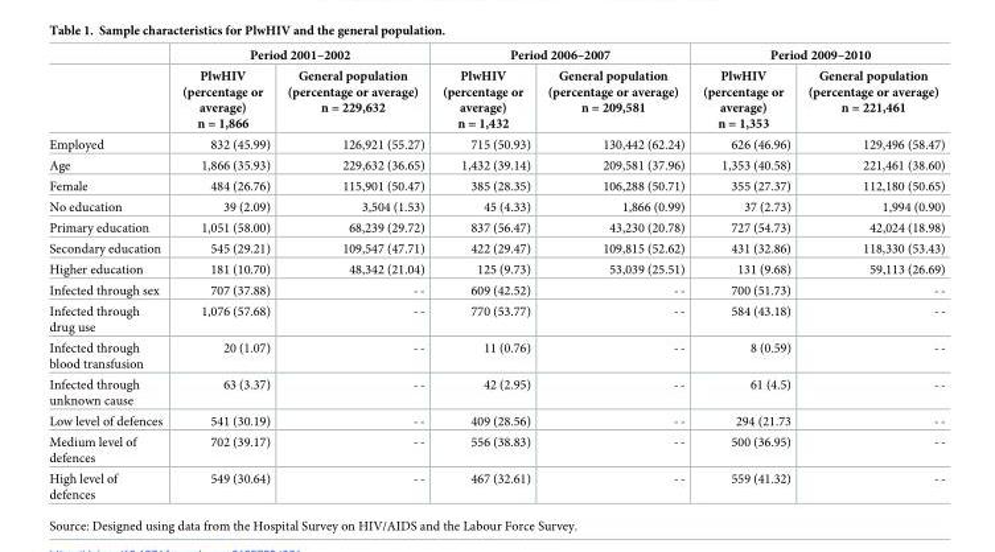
<table><thead><tr><td rowspan="2"></td><td colspan="2">Period 2001–2002</td><td colspan="2">Period 2006–2007</td><td colspan="2">Period 2009–2010</td></tr><tr><td>PlwHIV (percentage or average) n = 1,866</td><td>General population (percentage or average) n = 229,632</td><td>PlwHIV (percentage or average) n = 1,432</td><td>General population (percentage or average) n = 209,581</td><td>PlwHIV (percentage or average) n = 1,353</td><td>General population (percentage or average) n = 221,461</td></tr></thead><tbody><tr><td>Employed</td><td>832 (45.99)</td><td>126,921 (55.27)</td><td>715 (50.93)</td><td>130,442 (62.24)</td><td>626 (46.96)</td><td>129,496 (58.47)</td></tr><tr><td>Age</td><td>1,866 (35.93)</td><td>229,632 (36.65)</td><td>1,432 (39.14)</td><td>209,581 (37.96)</td><td>1,353 (40.58)</td><td>221,461 (38.60)</td></tr><tr><td>Female</td><td>484 (26.76)</td><td>115,901 (50.47)</td><td>385 (28.35)</td><td>106,288 (50.71)</td><td>355 (27.37)</td><td>112,180 (50.65)</td></tr><tr><td>No education</td><td>39 (2.09)</td><td>3,504 (1.53)</td><td>45 (4.33)</td><td>1,866 (0.99)</td><td>37 (2.73)</td><td>1,994 (0.90)</td></tr><tr><td>Primary education</td><td>1,051 (58.00)</td><td>68,239 (29.72)</td><td>837 (56.47)</td><td>43,230 (20.78)</td><td>727 (54.73)</td><td>42,024 (18.98)</td></tr><tr><td>Secondary education</td><td>545 (29.21)</td><td>109,547 (47.71)</td><td>422 (29.47)</td><td>109,815 (52.62)</td><td>431 (32.86)</td><td>118,330 (53.43)</td></tr><tr><td>Higher education</td><td>181 (10.70)</td><td>48,342 (21.04)</td><td>125 (9.73)</td><td>53,039 (25.51)</td><td>131 (9.68)</td><td>59,113 (26.69)</td></tr><tr><td>Infected through sex</td><td>707 (37.88)</td><td>--</td><td>609 (42.52)</td><td>--</td><td>700 (51.73)</td><td>--</td></tr><tr><td>Infected through drug use</td><td>1,076 (57.68)</td><td>--</td><td>770 (53.77)</td><td>--</td><td>584 (43.18)</td><td>--</td></tr><tr><td>Infected through blood transfusion</td><td>20 (1.07)</td><td>--</td><td>11 (0.76)</td><td>--</td><td>8 (0.59)</td><td>--</td></tr><tr><td>Infected through unknown cause</td><td>63 (3.37)</td><td>--</td><td>42 (2.95)</td><td>--</td><td>61 (4.5)</td><td>--</td></tr><tr><td>Low level of defences</td><td>541 (30.19)</td><td>--</td><td>409 (28.56)</td><td>--</td><td>294 (21.73</td><td>--</td></tr><tr><td>Medium level of defences</td><td>702 (39.17)</td><td>--</td><td>556 (38.83)</td><td>--</td><td>500 (36.95)</td><td>--</td></tr><tr><td>High level of defences</td><td>549 (30.64)</td><td>--</td><td>467 (32.61)</td><td>--</td><td>559 (41.32)</td><td>--</td></tr></tbody></table>